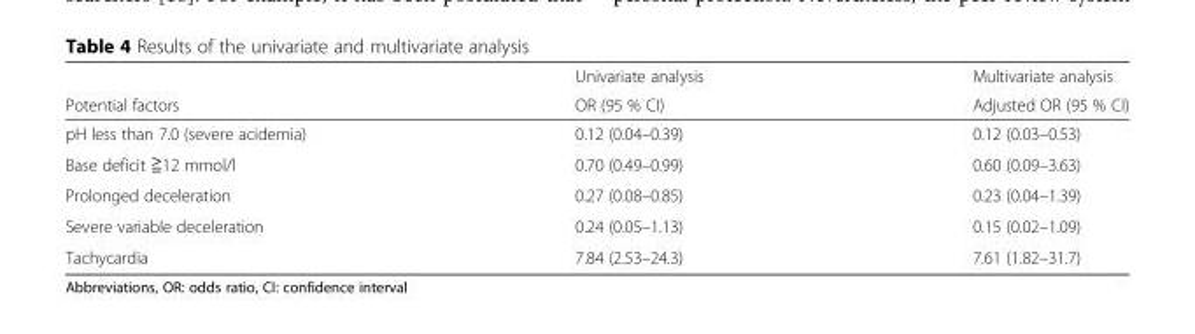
<table><thead><tr><td rowspan="2">Potential factors</td><td rowspan="2">Univariate analysis OR (95 % CI)</td><td rowspan="2">Multivariate analysis Adjusted OR (95 % CI)</td></tr><tr></tr></thead><tbody><tr><td>pH less than 7.0 (severe acidemia)</td><td>0.12 (0.04–0.39)</td><td>0.12 (0.03–0.53)</td></tr><tr><td>Base deficit ≧12 mmol/l</td><td>0.70 (0.49–0.99)</td><td>0.60 (0.09–3.63)</td></tr><tr><td>Prolonged deceleration</td><td>0.27 (0.08–0.85)</td><td>0.23 (0.04–1.39)</td></tr><tr><td>Severe variable deceleration</td><td>0.24 (0.05–1.13)</td><td>0.15 (0.02–1.09)</td></tr><tr><td>Tachycardia</td><td>7.84 (2.53–24.3)</td><td>7.61 (1.82–31.7)</td></tr></tbody></table>